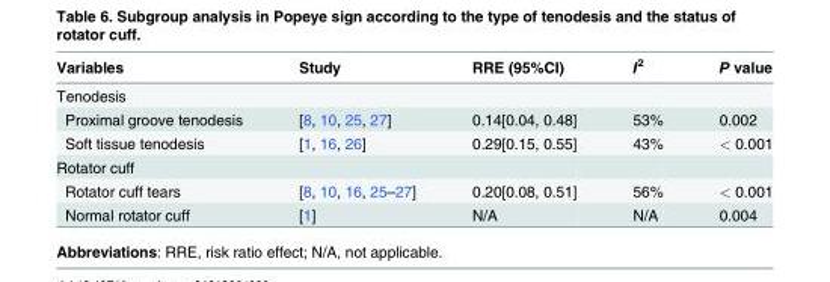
<table><thead><tr><td>Variables</td><td>Study</td><td>RRE (95%CI)</td><td>I<sup>2</sup></td><td>P value</td></tr></thead><tbody><tr><td colspan="5">Tenodesis</td></tr><tr><td>Proximal groove tenodesis</td><td>[8, 10, 25, 27]</td><td>0.14[0.04, 0.48]</td><td>53%</td><td>0.002</td></tr><tr><td>Soft tissue tenodesis</td><td>[1, 16, 26]</td><td>0.29[0.15, 0.55]</td><td>43%</td><td>&lt; 0.001</td></tr><tr><td colspan="5">Rotator cuff</td></tr><tr><td>Rotator cuff tears</td><td>[8, 10, 16, 25–27]</td><td>0.20[0.08, 0.51]</td><td>56%</td><td>&lt; 0.001</td></tr><tr><td>Normal rotator cuff</td><td>[1]</td><td>N/A</td><td>N/A</td><td>0.004</td></tr></tbody></table>